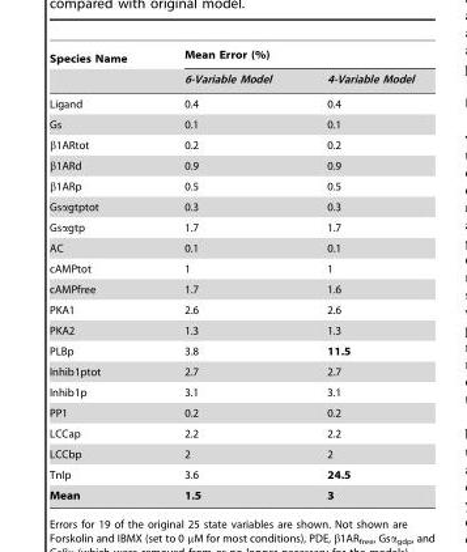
<table><thead><tr><td rowspan="2">Species Name</td><td colspan="2">Mean Error (%)</td></tr><tr><td>6-Variable Model</td><td>4-Variable Model</td></tr></thead><tbody><tr><td>Ligand</td><td>0.4</td><td>0.4</td></tr><tr><td>Gs</td><td>0.1</td><td>0.1</td></tr><tr><td>β1ARtot</td><td>0.2</td><td>0.2</td></tr><tr><td>β1ARd</td><td>0.9</td><td>0.9</td></tr><tr><td>β1ARp</td><td>0.5</td><td>0.5</td></tr><tr><td>Gsαgtptot</td><td>0.3</td><td>0.3</td></tr><tr><td>Gsαgtp</td><td>1.7</td><td>1.7</td></tr><tr><td>AC</td><td>0.1</td><td>0.1</td></tr><tr><td>cAMPtot</td><td>1</td><td>1</td></tr><tr><td>cAMPfree</td><td>1.7</td><td>1.6</td></tr><tr><td>PKA1</td><td>2.6</td><td>2.6</td></tr><tr><td>PKA2</td><td>1.3</td><td>1.3</td></tr><tr><td>PLBp</td><td>3.8</td><td>11.5</td></tr><tr><td>Inhib1ptot</td><td>2.7</td><td>2.7</td></tr><tr><td>Inhib1p</td><td>3.1</td><td>3.1</td></tr><tr><td>PP1</td><td>0.2</td><td>0.2</td></tr><tr><td>LCCap</td><td>2.2</td><td>2.2</td></tr><tr><td>LCCbp</td><td>2</td><td>2</td></tr><tr><td>TnIp</td><td>3.6</td><td>24.5</td></tr><tr><td>Mean</td><td>1.5</td><td>3</td></tr></tbody></table>